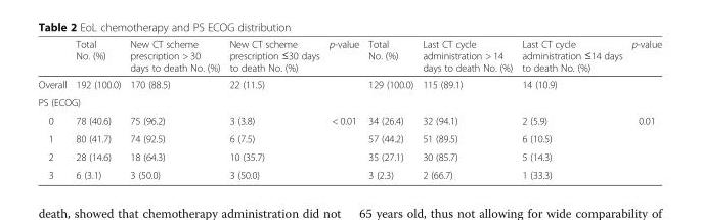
<table><thead><tr><td></td><td>Total No. (%)</td><td>New CT scheme prescription &gt; 30 days to death No. (%)</td><td>New CT scheme prescription ≤30 days to death No. (%)</td><td>p-value</td><td>Total No. (%)</td><td>Last CT cycle administration &gt; 14 days to death No. (%)</td><td>Last CT cycle administration ≤14 days to death No. (%)</td><td>p-value</td></tr></thead><tbody><tr><td>Overall</td><td>192 (100.0)</td><td>170 (88.5)</td><td>22 (11.5)</td><td></td><td>129 (100.0)</td><td>115 (89.1)</td><td>14 (10.9)</td><td></td></tr><tr><td colspan="9">PS (ECOG)</td></tr><tr><td>0</td><td>78 (40.6)</td><td>75 (96.2)</td><td>3 (3.8)</td><td rowspan="4">&lt; 0.01</td><td>34 (26.4)</td><td>32 (94.1)</td><td>2 (5.9)</td><td rowspan="4">0.01</td></tr><tr><td>1</td><td>80 (41.7)</td><td>74 (92.5)</td><td>6 (7.5)</td><td>57 (44.2)</td><td>51 (89.5)</td><td>6 (10.5)</td></tr><tr><td>2</td><td>28 (14.6)</td><td>18 (64.3)</td><td>10 (35.7)</td><td>35 (27.1)</td><td>30 (85.7)</td><td>5 (14.3)</td></tr><tr><td>3</td><td>6 (3.1)</td><td>3 (50.0)</td><td>3 (50.0)</td><td>3 (2.3)</td><td>2 (66.7)</td><td>1 (33.3)</td></tr></tbody></table>